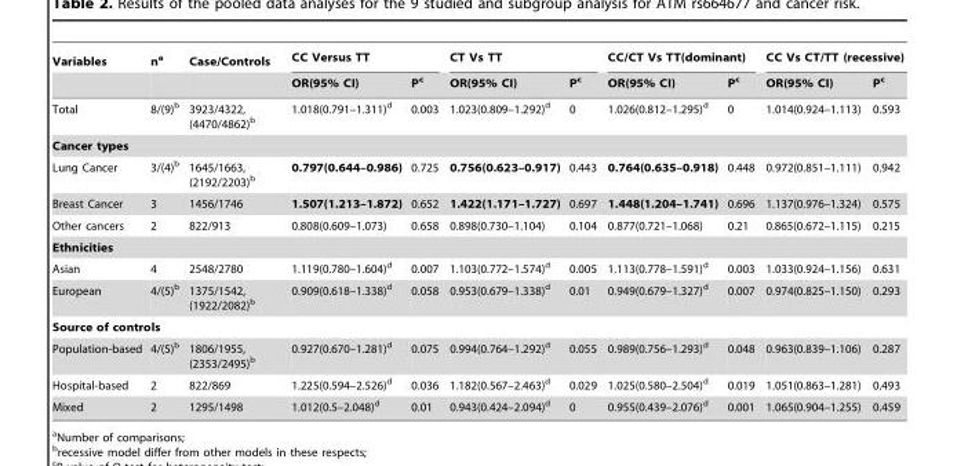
<table><thead><tr><td rowspan="2">Variables</td><td rowspan="2">n<sup>a</sup></td><td rowspan="2">Case/Controls</td><td colspan="2">CC Versus TT</td><td colspan="2">CT Vs TT</td><td colspan="2">CC/CT Vs TT(dominant)</td><td colspan="2">CC Vs CT/TT (recessive)</td></tr><tr><td>OR(95% CI)</td><td>P<sup>c</sup></td><td>OR(95% CI)</td><td>P<sup>c</sup></td><td>OR(95% CI)</td><td>P<sup>c</sup></td><td>OR(95% CI)</td><td>P<sup>c</sup></td></tr></thead><tbody><tr><td>Total</td><td>8/(9)<sup>b</sup></td><td>3923/4322, (4470/4862)<sup>b</sup></td><td>1.018(0.791–1.311)<sup>d</sup></td><td>0.003</td><td>1.023(0.809–1.292)<sup>d</sup></td><td>0</td><td>1.026(0.812–1.295)<sup>d</sup></td><td>0</td><td>1.014(0.924–1.113)</td><td>0.593</td></tr><tr><td colspan="11">Cancer types</td></tr><tr><td>Lung Cancer</td><td>3/(4)<sup>b</sup></td><td>1645/1663, (2192/2203)<sup>b</sup></td><td>0.797(0.644–0.986)</td><td>0.725</td><td>0.756(0.623–0.917)</td><td>0.443</td><td>0.764(0.635–0.918)</td><td>0.448</td><td>0.972(0.851–1.111)</td><td>0.942</td></tr><tr><td>Breast Cancer</td><td>3</td><td>1456/1746</td><td>1.507(1.213–1.872)</td><td>0.652</td><td>1.422(1.171–1.727)</td><td>0.697</td><td>1.448(1.204–1.741)</td><td>0.696</td><td>1.137(0.976–1.324)</td><td>0.575</td></tr><tr><td>Other cancers</td><td>2</td><td>822/913</td><td>0.808(0.609–1.073)</td><td>0.658</td><td>0.898(0.730–1.104)</td><td>0.104</td><td>0.877(0.721–1.068)</td><td>0.21</td><td>0.865(0.672–1.115)</td><td>0.215</td></tr><tr><td colspan="11">Ethnicities</td></tr><tr><td>Asian</td><td>4</td><td>2548/2780</td><td>1.119(0.780–1.604)<sup>d</sup></td><td>0.007</td><td>1.103(0.772–1.574)<sup>d</sup></td><td>0.005</td><td>1.113(0.778–1.591)<sup>d</sup></td><td>0.003</td><td>1.033(0.924–1.156)</td><td>0.631</td></tr><tr><td>European</td><td>4/(5)<sup>b</sup></td><td>1375/1542, (1922/2082)<sup>b</sup></td><td>0.909(0.618–1.338)<sup>d</sup></td><td>0.058</td><td>0.953(0.679–1.338)<sup>d</sup></td><td>0.01</td><td>0.949(0.679–1.327)<sup>d</sup></td><td>0.007</td><td>0.974(0.825–1.150)</td><td>0.293</td></tr><tr><td colspan="11">Source of controls</td></tr><tr><td>Population-based</td><td>4/(5)<sup>b</sup></td><td>1806/1955, (2353/2495)<sup>b</sup></td><td>0.927(0.670–1.281)<sup>d</sup></td><td>0.075</td><td>0.994(0.764–1.292)<sup>d</sup></td><td>0.055</td><td>0.989(0.756–1.293)<sup>d</sup></td><td>0.048</td><td>0.963(0.839–1.106)</td><td>0.287</td></tr><tr><td>Hospital-based</td><td>2</td><td>822/869</td><td>1.225(0.594–2.526)<sup>d</sup></td><td>0.036</td><td>1.182(0.567–2.463)<sup>d</sup></td><td>0.029</td><td>1.025(0.580–2.504)<sup>d</sup></td><td>0.019</td><td>1.051(0.863–1.281)</td><td>0.493</td></tr><tr><td>Mixed</td><td>2</td><td>1295/1498</td><td>1.012(0.5–2.048)<sup>d</sup></td><td>0.01</td><td>0.943(0.424–2.094)<sup>d</sup></td><td>0</td><td>0.955(0.439–2.076)<sup>d</sup></td><td>0.001</td><td>1.065(0.904–1.255)</td><td>0.459</td></tr></tbody></table>